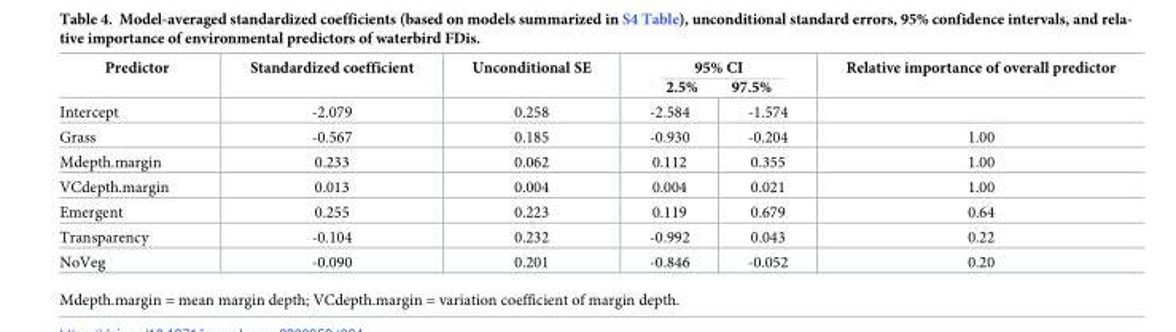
<table><thead><tr><td rowspan="2">Predictor Intercept</td><td rowspan="2">Standardized coefficient -2.079</td><td rowspan="2">Unconditional SE 0.258</td><td colspan="2">95% CI 2.5% 97.5%</td><td rowspan="2">Relative importance of overall predictor</td></tr><tr><td>-2.584</td><td>-1.574</td></tr></thead><tbody><tr><td>Grass</td><td>-0.567</td><td>0.185</td><td>-0.930</td><td>-0.204</td><td>1.00</td></tr><tr><td>Mdepth.margin</td><td>0.233</td><td>0.062</td><td>0.112</td><td>0.355</td><td>1.00</td></tr><tr><td>VCdepth.margin</td><td>0.013</td><td>0.004</td><td>0.004</td><td>0.021</td><td>1.00</td></tr><tr><td>Emergent</td><td>0.255</td><td>0.223</td><td>0.119</td><td>0.679</td><td>0.64</td></tr><tr><td>Transparency</td><td>-0.104</td><td>0.232</td><td>-0.992</td><td>0.043</td><td>0.22</td></tr><tr><td>NoVeg</td><td>-0.090</td><td>0.201</td><td>-0.846</td><td>-0.052</td><td>0.20</td></tr></tbody></table>